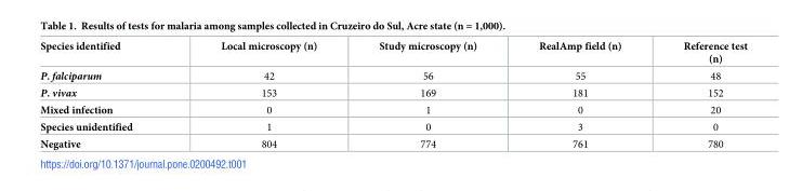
<table><thead><tr><td>Species identified</td><td>Local microscopy (n)</td><td>Study microscopy (n)</td><td>RealAmp field (n)</td><td>Reference test (n)</td></tr></thead><tbody><tr><td>P. falciparum</td><td>42</td><td>56</td><td>55</td><td>48</td></tr><tr><td>P. vivax</td><td>153</td><td>169</td><td>181</td><td>152</td></tr><tr><td>Mixed infection</td><td>0</td><td>1</td><td>0</td><td>20</td></tr><tr><td>Species unidentified</td><td>1</td><td>0</td><td>3</td><td>0</td></tr><tr><td>Negative</td><td>804</td><td>774</td><td>761</td><td>780</td></tr></tbody></table>